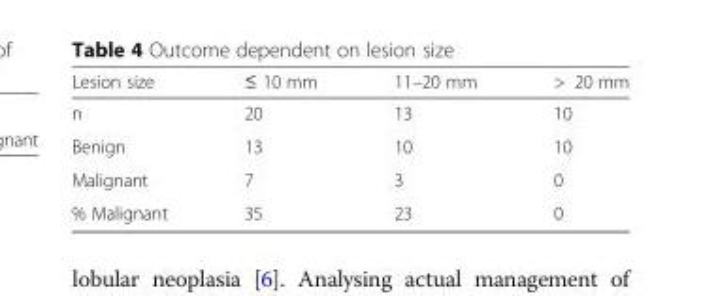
<table><thead><tr><td>Lesion size</td><td>≤ 10 mm</td><td>11–20 mm</td><td>&gt; 20 mm</td></tr></thead><tbody><tr><td>n</td><td>20</td><td>13</td><td>10</td></tr><tr><td>Benign</td><td>13</td><td>10</td><td>10</td></tr><tr><td>Malignant</td><td>7</td><td>3</td><td>0</td></tr><tr><td>% Malignant</td><td>35</td><td>23</td><td>0</td></tr></tbody></table>